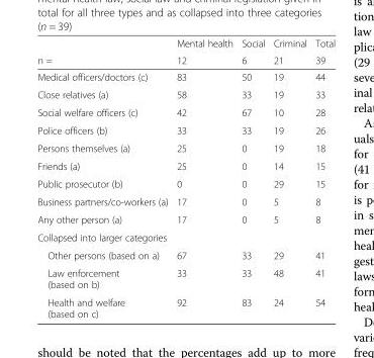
<table><thead><tr><td rowspan="2">n =</td><td rowspan="2">Mental health 12</td><td rowspan="2">Social 6</td><td rowspan="2">Criminal 21</td><td rowspan="2">Total 39</td></tr><tr></tr></thead><tbody><tr><td>Medical officers/doctors (c)</td><td>83</td><td>50</td><td>19</td><td>44</td></tr><tr><td>Close relatives (a)</td><td>58</td><td>33</td><td>19</td><td>33</td></tr><tr><td>Social welfare officers (c)</td><td>42</td><td>67</td><td>10</td><td>28</td></tr><tr><td>Police officers (b)</td><td>33</td><td>33</td><td>19</td><td>26</td></tr><tr><td>Persons themselves (a)</td><td>25</td><td>0</td><td>19</td><td>18</td></tr><tr><td>Friends (a)</td><td>25</td><td>0</td><td>14</td><td>15</td></tr><tr><td>Public prosecutor (b)</td><td>0</td><td>0</td><td>29</td><td>15</td></tr><tr><td>Business partners/co-workers (a)</td><td>17</td><td>0</td><td>5</td><td>8</td></tr><tr><td>Any other person (a)</td><td>17</td><td>0</td><td>5</td><td>8</td></tr><tr><td colspan="5">Collapsed into larger categories</td></tr><tr><td>Other persons (based on a)</td><td>67</td><td>33</td><td>29</td><td>41</td></tr><tr><td>Law enforcement (based on b)</td><td>33</td><td>33</td><td>48</td><td>41</td></tr><tr><td>Health and welfare (based on c)</td><td>92</td><td>83</td><td>24</td><td>54</td></tr></tbody></table>